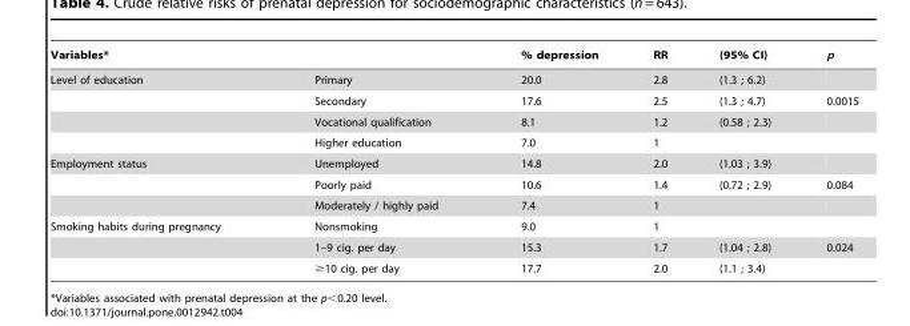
<table><thead><tr><td>Variables*</td><td></td><td>% depression</td><td>RR</td><td>(95% CI)</td><td>p</td></tr></thead><tbody><tr><td rowspan="4">Level of education</td><td>Primary</td><td>20.0</td><td>2.8</td><td>(1.3 ; 6.2)</td><td></td></tr><tr><td>Secondary</td><td>17.6</td><td>2.5</td><td>(1.3 ; 4.7)</td><td>0.0015</td></tr><tr><td>Vocational qualification</td><td>8.1</td><td>1.2</td><td>(0.58 ; 2.3)</td><td></td></tr><tr><td>Higher education</td><td>7.0</td><td>1</td><td></td><td></td></tr><tr><td rowspan="3">Employment status</td><td>Unemployed</td><td>14.8</td><td>2.0</td><td>(1.03 ; 3.9)</td><td></td></tr><tr><td>Poorly paid</td><td>10.6</td><td>1.4</td><td>(0.72 ; 2.9)</td><td>0.084</td></tr><tr><td>Moderately / highly paid</td><td>7.4</td><td>1</td><td></td><td></td></tr><tr><td rowspan="3">Smoking habits during pregnancy</td><td>Nonsmoking</td><td>9.0</td><td>1</td><td></td><td></td></tr><tr><td>1–9 cig. per day</td><td>15.3</td><td>1.7</td><td>(1.04 ; 2.8)</td><td>0.024</td></tr><tr><td>≥10 cig. per day</td><td>17.7</td><td>2.0</td><td>(1.1 ; 3.4)</td><td></td></tr></tbody></table>